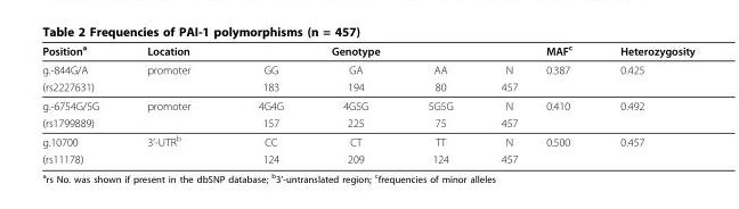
<table><thead><tr><td>Position<sup>a</sup></td><td>Location</td><td></td><td>Genotype</td><td></td><td></td><td>MAF<sup>c</sup></td><td>Heterozygosity</td></tr></thead><tbody><tr><td>g.-844G/A</td><td>promoter</td><td>GG</td><td>GA</td><td>AA</td><td>N</td><td>0.387</td><td>0.425</td></tr><tr><td>(rs2227631)</td><td></td><td>183</td><td>194</td><td>80</td><td>457</td><td></td><td></td></tr><tr><td>g.-6754G/5G</td><td>promoter</td><td>4G4G</td><td>4G5G</td><td>5G5G</td><td>N</td><td>0.410</td><td>0.492</td></tr><tr><td>(rs1799889)</td><td></td><td>157</td><td>225</td><td>75</td><td>457</td><td></td><td></td></tr><tr><td>g.10700</td><td>3’-UTR<sup>b</sup></td><td>CC</td><td>CT</td><td>TT</td><td>N</td><td>0.500</td><td>0.457</td></tr><tr><td>(rs11178)</td><td></td><td>124</td><td>209</td><td>124</td><td>457</td><td></td><td></td></tr></tbody></table>